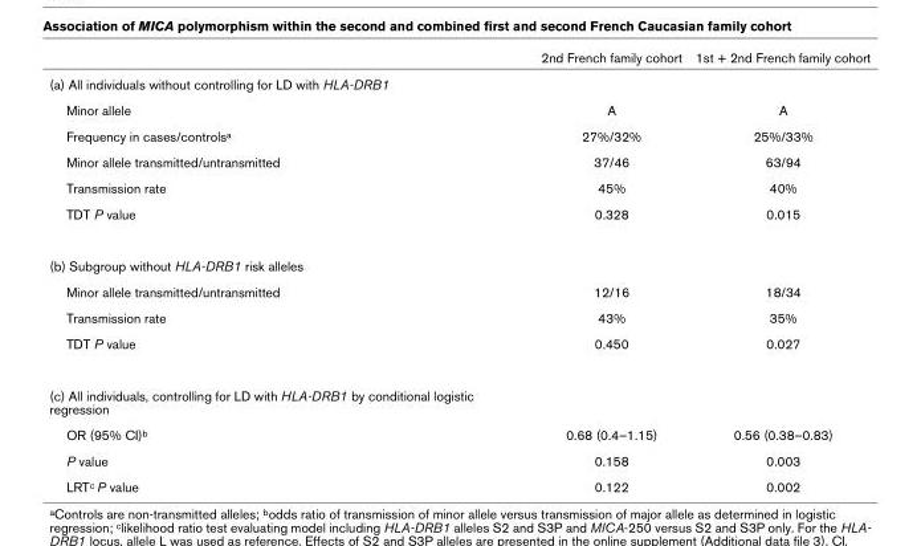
<table><thead><tr><td></td><td>2nd French family cohort</td><td>1st + 2nd French family cohort</td></tr></thead><tbody><tr><td colspan="3">(a) All individuals without controlling for LD with HLA-DRB1</td></tr><tr><td>Minor allele</td><td>A</td><td>A</td></tr><tr><td>Frequency in cases/controls<sup>a</sup></td><td>27%/32%</td><td>25%/33%</td></tr><tr><td>Minor allele transmitted/untransmitted</td><td>37/46</td><td>63/94</td></tr><tr><td>Transmission rate</td><td>45%</td><td>40%</td></tr><tr><td>TDT P value</td><td>0.328</td><td>0.015</td></tr><tr><td colspan="3">(b) Subgroup without HLA-DRB1 risk alleles</td></tr><tr><td>Minor allele transmitted/untransmitted</td><td>12/16</td><td>18/34</td></tr><tr><td>Transmission rate</td><td>43%</td><td>35%</td></tr><tr><td>TDT P value</td><td>0.450</td><td>0.027</td></tr><tr><td colspan="3">(c) All individuals, controlling for LD with HLA-DRB1 by conditional logistic regression</td></tr><tr><td>OR (95% CI)<sup>b</sup></td><td>0.68 (0.4–1.15)</td><td>0.56 (0.38–0.83)</td></tr><tr><td>P value</td><td>0.158</td><td>0.003</td></tr><tr><td>LRT<sup>c</sup> P value</td><td>0.122</td><td>0.002</td></tr></tbody></table>